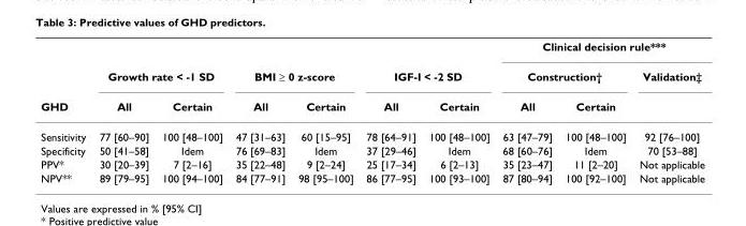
<table><thead><tr><td rowspan="3">GHD</td><td></td><td></td><td></td><td></td><td></td><td></td><td colspan="3">Clinical decision rule***</td></tr><tr><td colspan="2">Growth rate &lt; -1 SD</td><td colspan="2">BMI ≥ 0 z-score</td><td colspan="2">IGF-I &lt; -2 SD</td><td colspan="2">Construction†</td><td rowspan="2">Validation‡</td></tr><tr><td>All</td><td>Certain</td><td>All</td><td>Certain</td><td>All</td><td>Certain</td><td>All</td><td>Certain</td></tr></thead><tbody><tr><td>Sensitivity</td><td>77 [60–90]</td><td>100 [48–100]</td><td>47 [31–63]</td><td>60 [15–95]</td><td>78 [64–91]</td><td>100 [48–100]</td><td>63 [47–79]</td><td>100 [48–100]</td><td>92 [76–100]</td></tr><tr><td>Specificity</td><td>50 [41–58]</td><td>Idem</td><td>76 [69–83]</td><td>Idem</td><td>37 [29–46]</td><td>Idem</td><td>68 [60–76]</td><td>Idem</td><td>70 [53–88]</td></tr><tr><td>PPV*</td><td>30 [20–39]</td><td>7 [2–16]</td><td>35 [22–48]</td><td>9 [2–24]</td><td>25 [17–34]</td><td>6 [2–13]</td><td>35 [23–47]</td><td>11 [2–20]</td><td>Not applicable</td></tr><tr><td>NPV**</td><td>89 [79–95]</td><td>100 [94–100]</td><td>84 [77–91]</td><td>98 [95–100]</td><td>86 [77–95]</td><td>100 [93–100]</td><td>87 [80–94]</td><td>100 [92–100]</td><td>Not applicable</td></tr></tbody></table>